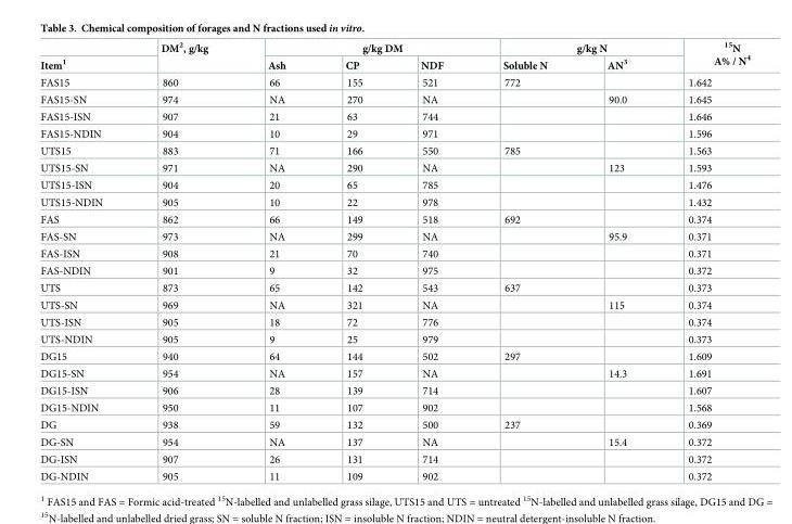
<table><thead><tr><td rowspan="2">Item<sup>1</sup></td><td rowspan="2">DM<sup>2</sup>, g/kg</td><td colspan="3">g/kg DM</td><td colspan="2">g/kg N</td><td rowspan="2"><sup>15</sup>N A% / N<sup>4</sup></td></tr><tr><td>Ash</td><td>CP</td><td>NDF</td><td>Soluble N</td><td>AN<sup>3</sup></td></tr></thead><tbody><tr><td>FAS15</td><td>860</td><td>66</td><td>155</td><td>521</td><td>772</td><td></td><td>1.642</td></tr><tr><td>FAS15-SN</td><td>974</td><td>NA</td><td>270</td><td>NA</td><td></td><td>90.0</td><td>1.645</td></tr><tr><td>FAS15-ISN</td><td>907</td><td>21</td><td>63</td><td>744</td><td></td><td></td><td>1.646</td></tr><tr><td>FAS15-NDIN</td><td>904</td><td>10</td><td>29</td><td>971</td><td></td><td></td><td>1.596</td></tr><tr><td>UTS15</td><td>883</td><td>71</td><td>166</td><td>550</td><td>785</td><td></td><td>1.563</td></tr><tr><td>UTS15-SN</td><td>971</td><td>NA</td><td>290</td><td>NA</td><td></td><td>123</td><td>1.593</td></tr><tr><td>UTS15-ISN</td><td>904</td><td>20</td><td>65</td><td>785</td><td></td><td></td><td>1.476</td></tr><tr><td>UTS15-NDIN</td><td>905</td><td>10</td><td>22</td><td>978</td><td></td><td></td><td>1.432</td></tr><tr><td>FAS</td><td>862</td><td>66</td><td>149</td><td>518</td><td>692</td><td></td><td>0.374</td></tr><tr><td>FAS-SN</td><td>973</td><td>NA</td><td>299</td><td>NA</td><td></td><td>95.9</td><td>0.371</td></tr><tr><td>FAS-ISN</td><td>908</td><td>21</td><td>70</td><td>740</td><td></td><td></td><td>0.371</td></tr><tr><td>FAS-NDIN</td><td>901</td><td>9</td><td>32</td><td>975</td><td></td><td></td><td>0.372</td></tr><tr><td>UTS</td><td>873</td><td>65</td><td>142</td><td>543</td><td>637</td><td></td><td>0.373</td></tr><tr><td>UTS-SN</td><td>969</td><td>NA</td><td>321</td><td>NA</td><td></td><td>115</td><td>0.374</td></tr><tr><td>UTS-ISN</td><td>905</td><td>18</td><td>72</td><td>776</td><td></td><td></td><td>0.374</td></tr><tr><td>UTS-NDIN</td><td>905</td><td>9</td><td>25</td><td>979</td><td></td><td></td><td>0.373</td></tr><tr><td>DG15</td><td>940</td><td>64</td><td>144</td><td>502</td><td>297</td><td></td><td>1.609</td></tr><tr><td>DG15-SN</td><td>954</td><td>NA</td><td>157</td><td>NA</td><td></td><td>14.3</td><td>1.691</td></tr><tr><td>DG15-ISN</td><td>906</td><td>28</td><td>139</td><td>714</td><td></td><td></td><td>1.607</td></tr><tr><td>DG15-NDIN</td><td>950</td><td>11</td><td>107</td><td>902</td><td></td><td></td><td>1.568</td></tr><tr><td>DG</td><td>938</td><td>59</td><td>132</td><td>500</td><td>237</td><td></td><td>0.369</td></tr><tr><td>DG-SN</td><td>954</td><td>NA</td><td>137</td><td>NA</td><td></td><td>15.4</td><td>0.372</td></tr><tr><td>DG-ISN</td><td>907</td><td>26</td><td>131</td><td>714</td><td></td><td></td><td>0.372</td></tr><tr><td>DG-NDIN</td><td>905</td><td>11</td><td>109</td><td>902</td><td></td><td></td><td>0.372</td></tr></tbody></table>